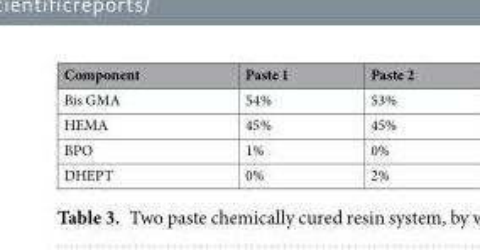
<table><thead><tr><td>Component</td><td>Paste 1</td><td>Paste 2</td></tr></thead><tbody><tr><td>Bis GMA</td><td>54%</td><td>53%</td></tr><tr><td>HEMA</td><td>45%</td><td>45%</td></tr><tr><td>BPO</td><td>1%</td><td>0%</td></tr><tr><td>DHEPT</td><td>0%</td><td>2%</td></tr></tbody></table>